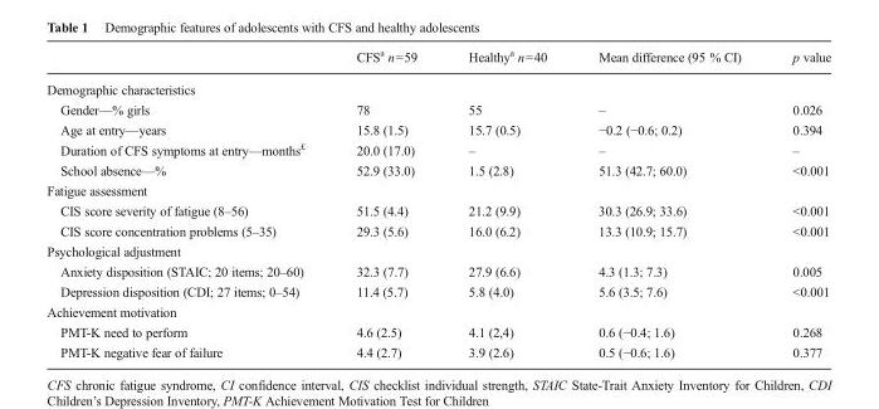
<table><thead><tr><td></td><td>CFS<sup>a</sup> n=59</td><td>Healthy<sup>a</sup> n=40</td><td>Mean difference (95 % CI)</td><td>p value</td></tr></thead><tbody><tr><td colspan="5">Demographic characteristics</td></tr><tr><td>Gender—% girls</td><td>78</td><td>55</td><td>–</td><td>0.026</td></tr><tr><td>Age at entry—years</td><td>15.8 (1.5)</td><td>15.7 (0.5)</td><td>−0.2 (−0.6; 0.2)</td><td>0.394</td></tr><tr><td>Duration of CFS symptoms at entry—months<sup>£</sup></td><td>20.0 (17.0)</td><td>–</td><td>–</td><td>–</td></tr><tr><td>School absence—%</td><td>52.9 (33.0)</td><td>1.5 (2.8)</td><td>51.3 (42.7; 60.0)</td><td>&lt;0.001</td></tr><tr><td colspan="5">Fatigue assessment</td></tr><tr><td>CIS score severity of fatigue (8–56)</td><td>51.5 (4.4)</td><td>21.2 (9.9)</td><td>30.3 (26.9; 33.6)</td><td>&lt;0.001</td></tr><tr><td>CIS score concentration problems (5–35)</td><td>29.3 (5.6)</td><td>16.0 (6.2)</td><td>13.3 (10.9; 15.7)</td><td>&lt;0.001</td></tr><tr><td colspan="5">Psychological adjustment</td></tr><tr><td>Anxiety disposition (STAIC; 20 items; 20–60)</td><td>32.3 (7.7)</td><td>27.9 (6.6)</td><td>4.3 (1.3; 7.3)</td><td>0.005</td></tr><tr><td>Depression disposition (CDI; 27 items; 0–54)</td><td>11.4 (5.7)</td><td>5.8 (4.0)</td><td>5.6 (3.5; 7.6)</td><td>&lt;0.001</td></tr><tr><td colspan="5">Achievement motivation</td></tr><tr><td>PMT-K need to perform</td><td>4.6 (2.5)</td><td>4.1 (2,4)</td><td>0.6 (−0.4; 1.6)</td><td>0.268</td></tr><tr><td>PMT-K negative fear of failure</td><td>4.4 (2.7)</td><td>3.9 (2.6)</td><td>0.5 (−0.6; 1.6)</td><td>0.377</td></tr></tbody></table>